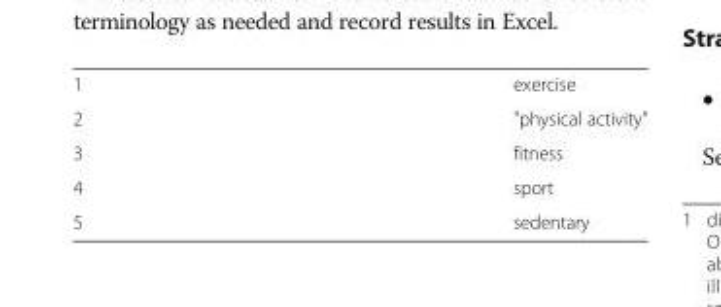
<table><tbody><tr><td>1</td><td>exercise</td></tr><tr><td>2</td><td>&quot;physical activity&quot;</td></tr><tr><td>3</td><td>fitness</td></tr><tr><td>4</td><td>sport</td></tr><tr><td>5</td><td>sedentary</td></tr></tbody></table>